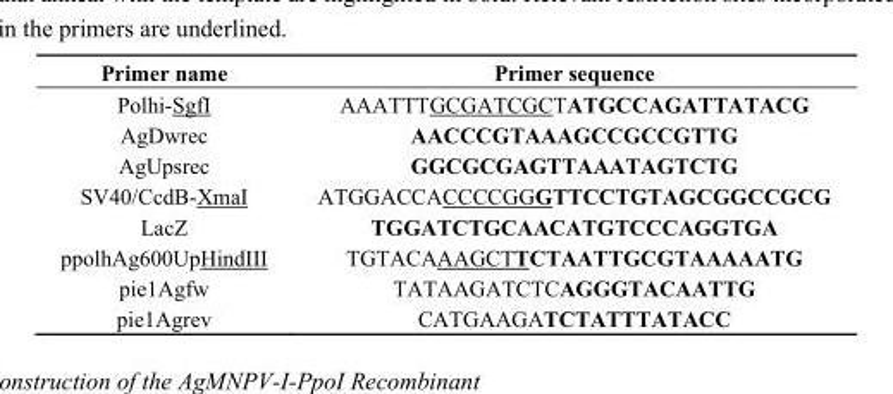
<table><thead><tr><td>Primer name</td><td>Primer sequence</td></tr></thead><tbody><tr><td>Polhi-SgfI</td><td>AAATTTGCGATCGCTATGCCAGATTATACG</td></tr><tr><td>AgDwrec</td><td>AACCCGTAAAGCCGCCGTTG</td></tr><tr><td>AgUpsrec</td><td>GGCGCGAGTTAAATAGTCTG</td></tr><tr><td>SV40/CcdB-XmaI</td><td>ATGGACCACCCCGGGTTCCTGTAGCGGCCGCG</td></tr><tr><td>LacZ</td><td>TGGATCTGCAACATGTCCCAGGTGA</td></tr><tr><td>ppolhAg600UpHindIII</td><td>TGTACAAAGCTTCTAATTGCGTAAAAATG</td></tr><tr><td>pie1Agfw</td><td>TATAAGATCTCAGGGTACAATTG</td></tr><tr><td>pie1Agrev</td><td>CATGAAGATCTATTTATACC</td></tr></tbody></table>